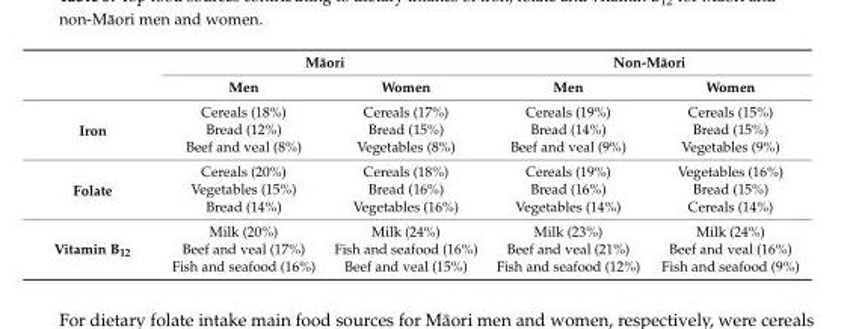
<table><thead><tr><td rowspan="2"></td><td colspan="2">M¯aori</td><td colspan="2">Non-M¯aori</td></tr><tr><td>Men</td><td>Women</td><td>Men</td><td>Women</td></tr></thead><tbody><tr><td rowspan="3">Iron</td><td>Cereals (18%)</td><td>Cereals (17%)</td><td>Cereals (19%)</td><td>Cereals (15%)</td></tr><tr><td>Bread (12%)</td><td>Bread (15%)</td><td>Bread (14%)</td><td>Bread (15%)</td></tr><tr><td>Beef and veal (8%)</td><td>Vegetables (8%)</td><td>Beef and veal (9%)</td><td>Vegetables (9%)</td></tr><tr><td rowspan="3">Folate</td><td>Cereals (20%)</td><td>Cereals (18%)</td><td>Cereals (19%)</td><td>Vegetables (16%)</td></tr><tr><td>Vegetables (15%)</td><td>Bread (16%)</td><td>Bread (16%)</td><td>Bread (15%)</td></tr><tr><td>Bread (14%)</td><td>Vegetables (16%)</td><td>Vegetables (14%)</td><td>Cereals (14%)</td></tr><tr><td rowspan="3">Vitamin B<sub>12</sub></td><td>Milk (20%)</td><td>Milk (24%)</td><td>Milk (23%)</td><td>Milk (24%)</td></tr><tr><td>Beef and veal (17%)</td><td>Fish and seafood (16%)</td><td>Beef and veal (21%)</td><td>Beef and veal (16%)</td></tr><tr><td>Fish and seafood (16%)</td><td>Beef and veal (15%)</td><td>Fish and seafood (12%)</td><td>Fish and seafood (9%)</td></tr></tbody></table>